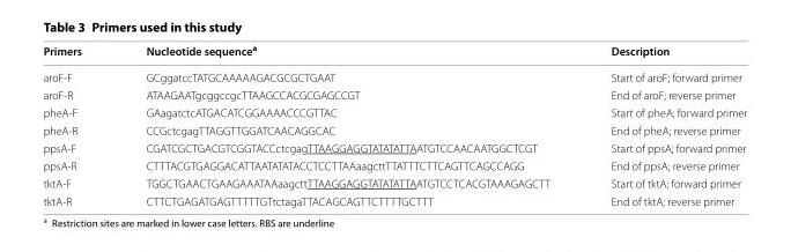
<table><thead><tr><td>Primers</td><td>Nucleotide sequence<sup>a</sup></td><td>Description</td></tr></thead><tbody><tr><td>aroF-F</td><td>GCggatccTATGCAAAAAGACGCGCTGAAT</td><td>Start of aroF; forward primer</td></tr><tr><td>aroF-R</td><td>ATAAGAATgcggccgcTTAAGCCACGCGAGCCGT</td><td>End of aroF; reverse primer</td></tr><tr><td>pheA-F</td><td>GAagatctcATGACATCGGAAAACCCGTTAC</td><td>Start of pheA; forward primer</td></tr><tr><td>pheA-R</td><td>CCGctcgagTTAGGTTGGATCAACAGGCAC</td><td>End of pheA; reverse primer</td></tr><tr><td>ppsA-F</td><td>CGATCGCTGACGTCGGTACCctcgagTTAAGGAGGTATATATTAATGTCCAACAATGGCTCGT</td><td>Start of ppsA; forward primer</td></tr><tr><td>ppsA-R</td><td>CTTTACGTGAGGACATTAATATATACCTCCTTAAaagcttTTATTTCTTCAGTTCAGCCAGG</td><td>End of ppsA; reverse primer</td></tr><tr><td>tktA-F</td><td>TGGCTGAACTGAAGAAATAAaagcttTTAAGGAGGTATATATTAATGTCCTCACGTAAAGAGCTT</td><td>Start of tktA; forward primer</td></tr><tr><td>tktA-R</td><td>CTTCTGAGATGAGTTTTTGTtctagaTTACAGCAGTTCTTTTGCTTT</td><td>End of tktA; reverse primer</td></tr></tbody></table>